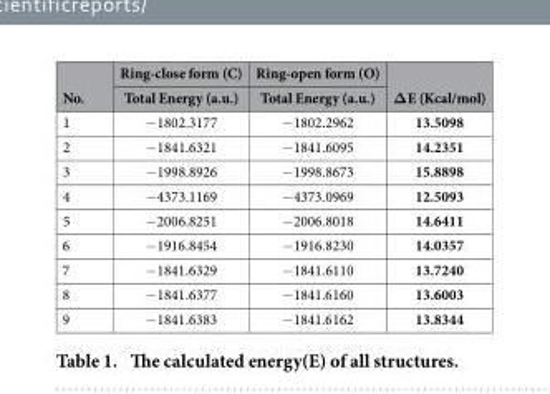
<table><thead><tr><td rowspan="2">No.</td><td rowspan="2">Ring-close form (C) Total Energy (a.u.)</td><td rowspan="2">Ring-open form (O) Total Energy (a.u.)</td><td rowspan="2">ΔE (Kcal/mol)</td></tr><tr></tr></thead><tbody><tr><td>1</td><td>− 1802.3177</td><td>− 1802.2962</td><td>13.5098</td></tr><tr><td>2</td><td>− 1841.6321</td><td>− 1841.6095</td><td>14.2351</td></tr><tr><td>3</td><td>− 1998.8926</td><td>− 1998.8673</td><td>15.8898</td></tr><tr><td>4</td><td>− 4373.1169</td><td>− 4373.0969</td><td>12.5093</td></tr><tr><td>5</td><td>− 2006.8251</td><td>− 2006.8018</td><td>14.6411</td></tr><tr><td>6</td><td>− 1916.8454</td><td>− 1916.8230</td><td>14.0357</td></tr><tr><td>7</td><td>− 1841.6329</td><td>− 1841.6110</td><td>13.7240</td></tr><tr><td>8</td><td>− 1841.6377</td><td>− 1841.6160</td><td>13.6003</td></tr><tr><td>9</td><td>− 1841.6383</td><td>− 1841.6162</td><td>13.8344</td></tr></tbody></table>